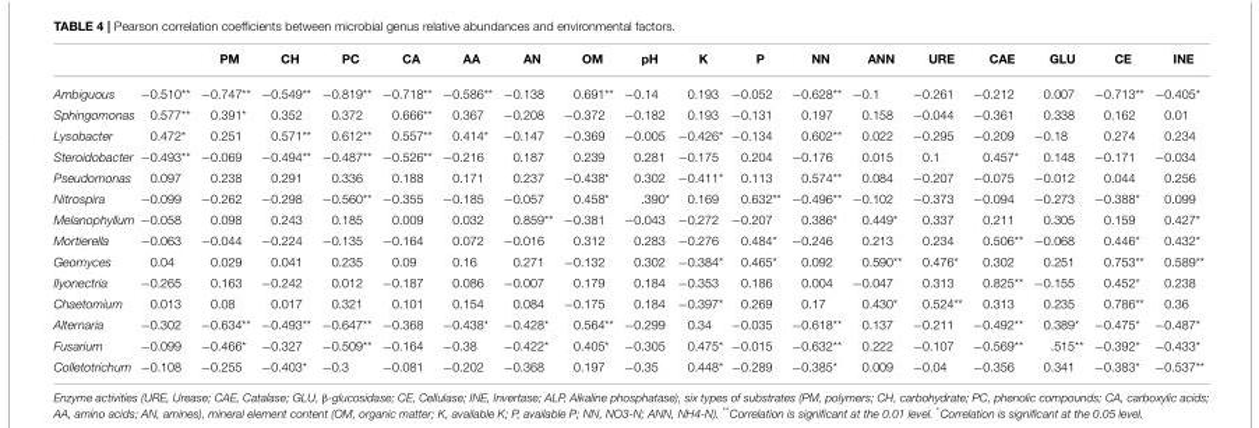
<table><thead><tr><td></td><td></td><td>PM</td><td>CH</td><td>PC</td><td>CA</td><td>AA</td><td>AN</td><td>OM</td><td>pH</td><td>K</td><td>P</td><td>NN</td><td>ANN</td><td>URE</td><td>CAE</td><td>GLU</td><td>CE</td><td>INE</td></tr></thead><tbody><tr><td>Ambiguous</td><td>−0.510**</td><td>−0.747**</td><td>−0.549**</td><td>−0.819**</td><td>−0.718**</td><td>−0.586**</td><td>−0.138</td><td>0.691**</td><td>−0.14</td><td>0.193</td><td>−0.052</td><td>−0.628**</td><td>−0.1</td><td>−0.261</td><td>−0.212</td><td>0.007</td><td>−0.713**</td><td>−0.405*</td></tr><tr><td>Sphingomonas</td><td>0.577**</td><td>0.391*</td><td>0.352</td><td>0.372</td><td>0.666**</td><td>0.367</td><td>−0.208</td><td>−0.372</td><td>−0.182</td><td>0.193</td><td>−0.131</td><td>0.197</td><td>0.158</td><td>−0.044</td><td>−0.361</td><td>0.338</td><td>0.162</td><td>0.01</td></tr><tr><td>Lysobacter</td><td>0.472*</td><td>0.251</td><td>0.571**</td><td>0.612**</td><td>0.557**</td><td>0.414*</td><td>−0.147</td><td>−0.369</td><td>−0.005</td><td>−0.426*</td><td>−0.134</td><td>0.602**</td><td>0.022</td><td>−0.295</td><td>−0.209</td><td>−0.18</td><td>0.274</td><td>0.234</td></tr><tr><td>Steroidobacter</td><td>−0.493**</td><td>−0.069</td><td>−0.494**</td><td>−0.487**</td><td>−0.526**</td><td>−0.216</td><td>0.187</td><td>0.239</td><td>0.281</td><td>−0.175</td><td>0.204</td><td>−0.176</td><td>0.015</td><td>0.1</td><td>0.457*</td><td>0.148</td><td>−0.171</td><td>−0.034</td></tr><tr><td>Pseudomonas</td><td>0.097</td><td>0.238</td><td>0.291</td><td>0.336</td><td>0.188</td><td>0.171</td><td>0.237</td><td>−0.438*</td><td>0.302</td><td>−0.411*</td><td>0.113</td><td>0.574**</td><td>0.084</td><td>−0.207</td><td>−0.075</td><td>−0.012</td><td>0.044</td><td>0.256</td></tr><tr><td>Nitrospira</td><td>−0.099</td><td>−0.262</td><td>−0.298</td><td>−0.560**</td><td>−0.355</td><td>−0.185</td><td>−0.057</td><td>0.458*</td><td>.390*</td><td>0.169</td><td>0.632**</td><td>−0.496**</td><td>−0.102</td><td>−0.373</td><td>−0.094</td><td>−0.273</td><td>−0.388*</td><td>0.099</td></tr><tr><td>Melanophyllum</td><td>−0.058</td><td>0.098</td><td>0.243</td><td>0.185</td><td>0.009</td><td>0.032</td><td>0.859**</td><td>−0.381</td><td>−0.043</td><td>−0.272</td><td>−0.207</td><td>0.386*</td><td>0.449*</td><td>0.337</td><td>0.211</td><td>0.305</td><td>0.159</td><td>0.427*</td></tr><tr><td>Mortierella</td><td>−0.063</td><td>−0.044</td><td>−0.224</td><td>−0.135</td><td>−0.164</td><td>0.072</td><td>−0.016</td><td>0.312</td><td>0.283</td><td>−0.276</td><td>0.484*</td><td>−0.246</td><td>0.213</td><td>0.234</td><td>0.506**</td><td>−0.068</td><td>0.446*</td><td>0.432*</td></tr><tr><td>Geomyces</td><td>0.04</td><td>0.029</td><td>0.041</td><td>0.235</td><td>0.09</td><td>0.16</td><td>0.271</td><td>−0.132</td><td>0.302</td><td>−0.384*</td><td>0.465*</td><td>0.092</td><td>0.590**</td><td>0.476*</td><td>0.302</td><td>0.251</td><td>0.753**</td><td>0.589**</td></tr><tr><td>Ilyonectria</td><td>−0.265</td><td>0.163</td><td>−0.242</td><td>0.012</td><td>−0.187</td><td>0.086</td><td>−0.007</td><td>0.179</td><td>0.184</td><td>−0.353</td><td>0.186</td><td>0.004</td><td>−0.047</td><td>0.313</td><td>0.825**</td><td>−0.155</td><td>0.452*</td><td>0.238</td></tr><tr><td>Chaetomium</td><td>0.013</td><td>0.08</td><td>0.017</td><td>0.321</td><td>0.101</td><td>0.154</td><td>0.084</td><td>−0.175</td><td>0.184</td><td>−0.397*</td><td>0.269</td><td>0.17</td><td>0.430*</td><td>0.524**</td><td>0.313</td><td>0.235</td><td>0.786**</td><td>0.36</td></tr><tr><td>Alternaria</td><td>−0.302</td><td>−0.634**</td><td>−0.493**</td><td>−0.647**</td><td>−0.368</td><td>−0.438*</td><td>−0.428*</td><td>0.564**</td><td>−0.299</td><td>0.34</td><td>−0.035</td><td>−0.618**</td><td>0.137</td><td>−0.211</td><td>−0.492**</td><td>0.389*</td><td>−0.475*</td><td>−0.487*</td></tr><tr><td>Fusarium</td><td>−0.099</td><td>−0.466*</td><td>−0.327</td><td>−0.509**</td><td>−0.164</td><td>−0.38</td><td>−0.422*</td><td>0.405*</td><td>−0.305</td><td>0.475*</td><td>−0.015</td><td>−0.632**</td><td>0.222</td><td>−0.107</td><td>−0.569**</td><td>.515**</td><td>−0.392*</td><td>−0.433*</td></tr><tr><td>Colletotrichum</td><td>−0.108</td><td>−0.255</td><td>−0.403*</td><td>−0.3</td><td>−0.081</td><td>−0.202</td><td>−0.368</td><td>0.197</td><td>−0.35</td><td>0.448*</td><td>−0.289</td><td>−0.385*</td><td>0.009</td><td>−0.04</td><td>−0.356</td><td>0.341</td><td>−0.383*</td><td>−0.537**</td></tr></tbody></table>